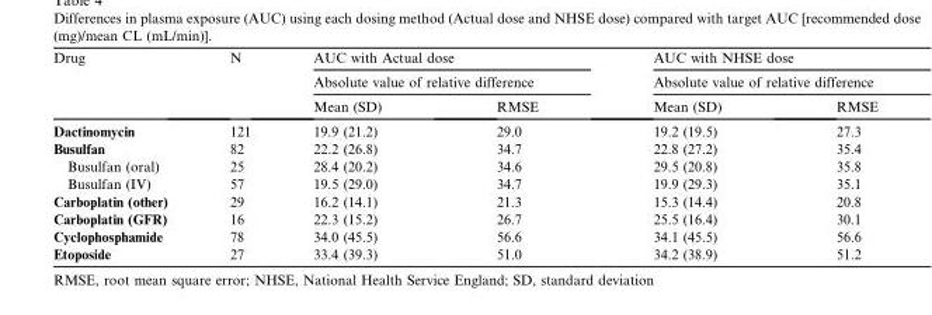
<table><thead><tr><td rowspan="3">Drug</td><td rowspan="3">N</td><td rowspan="2" colspan="2">AUC with Actual dose Absolute value of relative difference</td><td rowspan="2" colspan="2">AUC with NHSE dose Absolute value of relative difference</td></tr><tr></tr><tr><td>Mean (SD)</td><td>RMSE</td><td>Mean (SD)</td><td>RMSE</td></tr></thead><tbody><tr><td>Dactinomycin</td><td>121</td><td>19.9 (21.2)</td><td>29.0</td><td>19.2 (19.5)</td><td>27.3</td></tr><tr><td>Busulfan</td><td>82</td><td>22.2 (26.8)</td><td>34.7</td><td>22.8 (27.2)</td><td>35.4</td></tr><tr><td>Busulfan (oral)</td><td>25</td><td>28.4 (20.2)</td><td>34.6</td><td>29.5 (20.8)</td><td>35.8</td></tr><tr><td>Busulfan (IV)</td><td>57</td><td>19.5 (29.0)</td><td>34.7</td><td>19.9 (29.3)</td><td>35.1</td></tr><tr><td>Carboplatin (other)</td><td>29</td><td>16.2 (14.1)</td><td>21.3</td><td>15.3 (14.4)</td><td>20.8</td></tr><tr><td>Carboplatin (GFR)</td><td>16</td><td>22.3 (15.2)</td><td>26.7</td><td>25.5 (16.4)</td><td>30.1</td></tr><tr><td>Cyclophosphamide</td><td>78</td><td>34.0 (45.5)</td><td>56.6</td><td>34.1 (45.5)</td><td>56.6</td></tr><tr><td>Etoposide</td><td>27</td><td>33.4 (39.3)</td><td>51.0</td><td>34.2 (38.9)</td><td>51.2</td></tr></tbody></table>